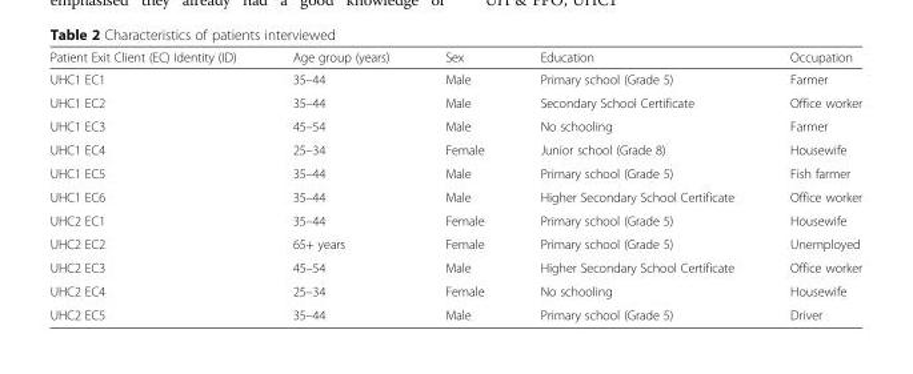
<table><thead><tr><td>Patient Exit Client (EC) Identity (ID)</td><td>Age group (years)</td><td>Sex</td><td>Education</td><td>Occupation</td></tr></thead><tbody><tr><td>UHC1 EC1</td><td>35–44</td><td>Male</td><td>Primary school (Grade 5)</td><td>Farmer</td></tr><tr><td>UHC1 EC2</td><td>35–44</td><td>Male</td><td>Secondary School Certificate</td><td>Office worker</td></tr><tr><td>UHC1 EC3</td><td>45–54</td><td>Male</td><td>No schooling</td><td>Farmer</td></tr><tr><td>UHC1 EC4</td><td>25–34</td><td>Female</td><td>Junior school (Grade 8)</td><td>Housewife</td></tr><tr><td>UHC1 EC5</td><td>35–44</td><td>Male</td><td>Primary school (Grade 5)</td><td>Fish farmer</td></tr><tr><td>UHC1 EC6</td><td>35–44</td><td>Male</td><td>Higher Secondary School Certificate</td><td>Office worker</td></tr><tr><td>UHC2 EC1</td><td>35–44</td><td>Female</td><td>Primary school (Grade 5)</td><td>Housewife</td></tr><tr><td>UHC2 EC2</td><td>65+ years</td><td>Female</td><td>Primary school (Grade 5)</td><td>Unemployed</td></tr><tr><td>UHC2 EC3</td><td>45–54</td><td>Male</td><td>Higher Secondary School Certificate</td><td>Office worker</td></tr><tr><td>UHC2 EC4</td><td>25–34</td><td>Female</td><td>No schooling</td><td>Housewife</td></tr><tr><td>UHC2 EC5</td><td>35–44</td><td>Male</td><td>Primary school (Grade 5)</td><td>Driver</td></tr></tbody></table>